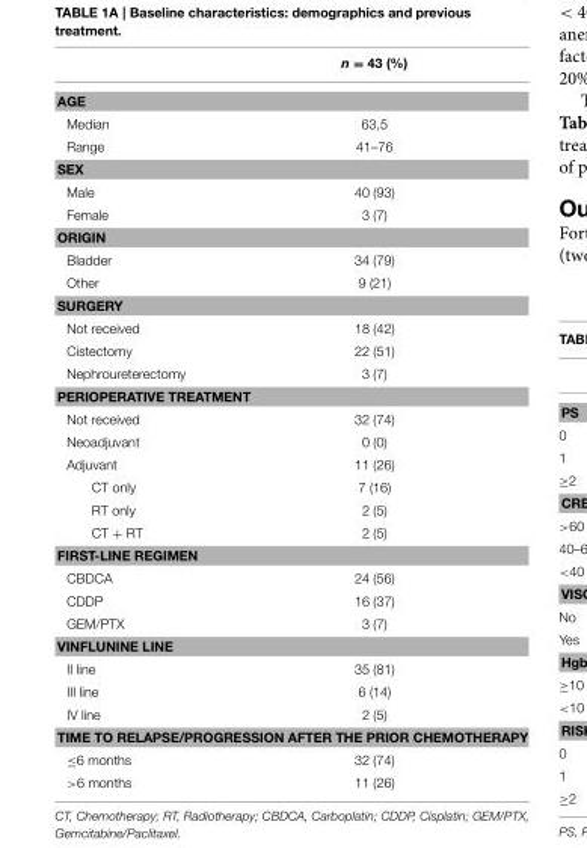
<table><thead><tr><td></td><td>n = 43 (%)</td></tr></thead><tbody><tr><td colspan="2">AGE</td></tr><tr><td>Median</td><td>63,5</td></tr><tr><td>Range</td><td>41–76</td></tr><tr><td colspan="2">SEX</td></tr><tr><td>Male</td><td>40 (93)</td></tr><tr><td>Female</td><td>3 (7)</td></tr><tr><td colspan="2">ORIGIN</td></tr><tr><td>Bladder</td><td>34 (79)</td></tr><tr><td>Other</td><td>9 (21)</td></tr><tr><td colspan="2">SURGERY</td></tr><tr><td>Not received</td><td>18 (42)</td></tr><tr><td>Cistectomy</td><td>22 (51)</td></tr><tr><td>Nephroureterectomy</td><td>3 (7)</td></tr><tr><td colspan="2">PERIOPERATIVE TREATMENT</td></tr><tr><td>Not received</td><td>32 (74)</td></tr><tr><td>Neoadjuvant</td><td>0 (0)</td></tr><tr><td>Adjuvant</td><td>11 (26)</td></tr><tr><td>CT only</td><td>7 (16)</td></tr><tr><td>RT only</td><td>2 (5)</td></tr><tr><td>CT + RT</td><td>2 (5)</td></tr><tr><td colspan="2">FIRST-LINE REGIMEN</td></tr><tr><td>CBDCA</td><td>24 (56)</td></tr><tr><td>CDDP</td><td>16 (37)</td></tr><tr><td>GEM/PTX</td><td>3 (7)</td></tr><tr><td colspan="2">VINFLUNINE LINE</td></tr><tr><td>II line</td><td>35 (81)</td></tr><tr><td>III line</td><td>6 (14)</td></tr><tr><td>IV line</td><td>2 (5)</td></tr><tr><td colspan="2">TIME TO RELAPSE/PROGRESSION AFTER THE PRIOR CHEMOTHERAPY</td></tr><tr><td>≤6 months</td><td>32 (74)</td></tr><tr><td>&gt;6 months</td><td>11 (26)</td></tr></tbody></table>